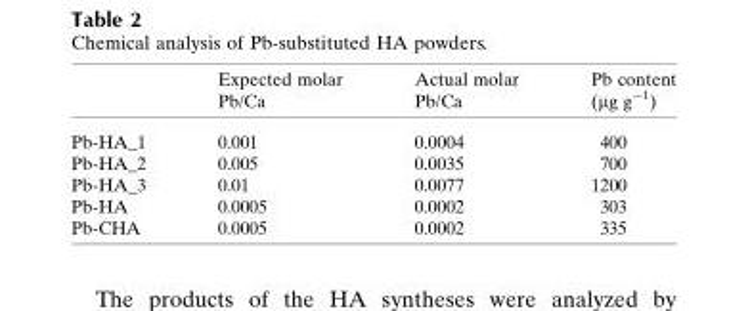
<table><thead><tr><td></td><td>Expected molar Pb/Ca</td><td>Actual molar Pb/Ca</td><td>Pb content (µg g<sup>−1</sup>)</td></tr></thead><tbody><tr><td>Pb-HA_1</td><td>0.001</td><td>0.0004</td><td>400</td></tr><tr><td>Pb-HA_2</td><td>0.005</td><td>0.0035</td><td>700</td></tr><tr><td>Pb-HA_3</td><td>0.01</td><td>0.0077</td><td>1200</td></tr><tr><td>Pb-HA</td><td>0.0005</td><td>0.0002</td><td>303</td></tr><tr><td>Pb-CHA</td><td>0.0005</td><td>0.0002</td><td>335</td></tr></tbody></table>